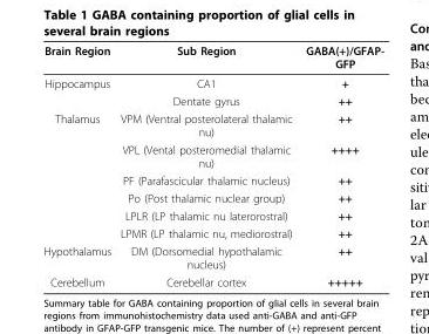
<table><thead><tr><td>Brain Region</td><td>Sub Region</td><td>GABA(+)/GFAP- GFP</td></tr></thead><tbody><tr><td rowspan="2">Hippocampus</td><td>CA1</td><td>+</td></tr><tr><td>Dentate gyrus</td><td>++</td></tr><tr><td rowspan="6">Thalamus</td><td>VPM (Ventral posterolateral thalamic nu)</td><td>++</td></tr><tr><td>VPL (Vental posteromedial thalamic nu)</td><td>++++</td></tr><tr><td>PF (Parafascicular thalamic nucleus)</td><td>++</td></tr><tr><td>Po (Post thalamic nuclear group)</td><td>++</td></tr><tr><td>LPLR (LP thalamic nu laterorostral)</td><td>++</td></tr><tr><td>LPMR (LP thalamic nu, mediorostral)</td><td>++</td></tr><tr><td>Hypothalamus</td><td>DM (Dorsomedial hypothalamic nucleus)</td><td>++</td></tr><tr><td>Cerebellum</td><td>Cerebellar cortex</td><td>+++++</td></tr></tbody></table>